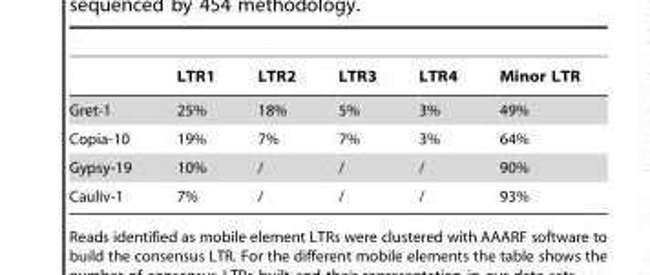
<table><thead><tr><td></td><td>LTR1</td><td>LTR2</td><td>LTR3</td><td>LTR4</td><td>Minor LTR</td></tr></thead><tbody><tr><td>Gret-1</td><td>25%</td><td>18%</td><td>5%</td><td>3%</td><td>49%</td></tr><tr><td>Copia-10</td><td>19%</td><td>7%</td><td>7%</td><td>3%</td><td>64%</td></tr><tr><td>Gypsy-19</td><td>10%</td><td>/</td><td>/</td><td>/</td><td>90%</td></tr><tr><td>Cauliv-1</td><td>7%</td><td>/</td><td>/</td><td>/</td><td>93%</td></tr></tbody></table>